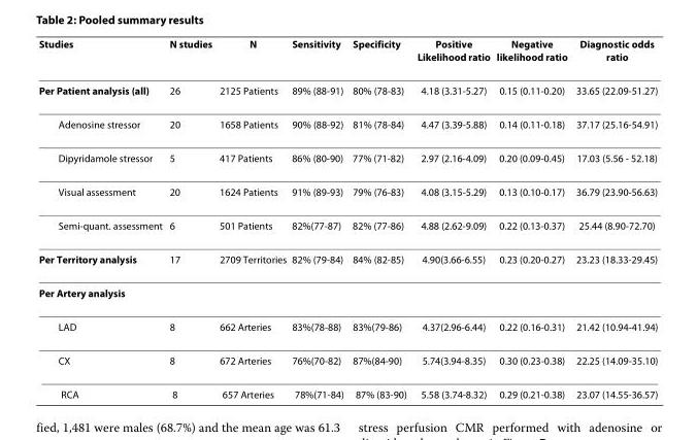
<table><thead><tr><td>Studies</td><td>N studies</td><td>N</td><td>Sensitivity</td><td>Specificity</td><td>Positive Likelihood ratio</td><td>Negative likelihood ratio</td><td>Diagnostic odds ratio</td></tr></thead><tbody><tr><td>Per Patient analysis (all)</td><td>26</td><td>2125 Patients</td><td>89% (88-91)</td><td>80% (78-83)</td><td>4.18 (3.31-5.27)</td><td>0.15 (0.11-0.20)</td><td>33.65 (22.09-51.27)</td></tr><tr><td>Adenosine stressor</td><td>20</td><td>1658 Patients</td><td>90% (88-92)</td><td>81% (78-84)</td><td>4.47 (3.39-5.88)</td><td>0.14 (0.11-0.18)</td><td>37.17 (25.16-54.91)</td></tr><tr><td>Dipyridamole stressor</td><td>5</td><td>417 Patients</td><td>86% (80-90)</td><td>77% (71-82)</td><td>2.97 (2.16-4.09)</td><td>0.20 (0.09-0.45)</td><td>17.03 (5.56 - 52.18)</td></tr><tr><td>Visual assessment</td><td>20</td><td>1624 Patients</td><td>91% (89-93)</td><td>79% (76-83)</td><td>4.08 (3.15-5.29)</td><td>0.13 (0.10-0.17)</td><td>36.79 (23.90-56.63)</td></tr><tr><td>Semi-quant. assessment</td><td>6</td><td>501 Patients</td><td>82%(77-87)</td><td>82% (77-86)</td><td>4.88 (2.62-9.09)</td><td>0.22 (0.13-0.37)</td><td>25.44 (8.90-72.70)</td></tr><tr><td>Per Territory analysis</td><td>17</td><td>2709 Territories</td><td>82% (79-84)</td><td>84% (82-85)</td><td>4.90(3.66-6.55)</td><td>0.23 (0.20-0.27)</td><td>23.23 (18.33-29.45)</td></tr><tr><td colspan="8">Per Artery analysis</td></tr><tr><td>LAD</td><td>8</td><td>662 Arteries</td><td>83%(78-88)</td><td>83%(79-86)</td><td>4.37(2.96-6.44)</td><td>0.22 (0.16-0.31)</td><td>21.42 (10.94-41.94)</td></tr><tr><td>CX</td><td>8</td><td>672 Arteries</td><td>76%(70-82)</td><td>87%(84-90)</td><td>5.74(3.94-8.35)</td><td>0.30 (0.23-0.38)</td><td>22.25 (14.09-35.10)</td></tr><tr><td>RCA</td><td>8</td><td>657 Arteries</td><td>78%(71-84)</td><td>87% (83-90)</td><td>5.58 (3.74-8.32)</td><td>0.29 (0.21-0.38)</td><td>23.07 (14.55-36.57)</td></tr></tbody></table>